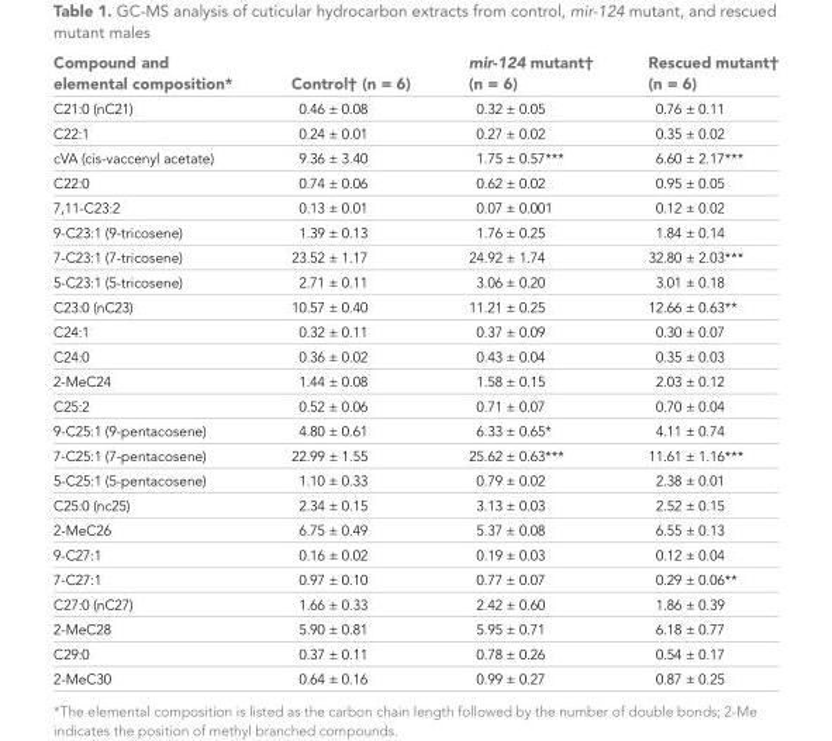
<table><thead><tr><td>Compound and elemental composition*</td><td>Control† (n = 6)</td><td>mir-124 mutant† (n = 6)</td><td>Rescued mutant† (n = 6)</td></tr></thead><tbody><tr><td>C21:0 (nC21)</td><td>0.46 ± 0.08</td><td>0.32 ± 0.05</td><td>0.76 ± 0.11</td></tr><tr><td>C22:1</td><td>0.24 ± 0.01</td><td>0.27 ± 0.02</td><td>0.35 ± 0.02</td></tr><tr><td>cVA (cis-vaccenyl acetate)</td><td>9.36 ± 3.40</td><td>1.75 ± 0.57***</td><td>6.60 ± 2.17***</td></tr><tr><td>C22:0</td><td>0.74 ± 0.06</td><td>0.62 ± 0.02</td><td>0.95 ± 0.05</td></tr><tr><td>7,11-C23:2</td><td>0.13 ± 0.01</td><td>0.07 ± 0.001</td><td>0.12 ± 0.02</td></tr><tr><td>9-C23:1 (9-tricosene)</td><td>1.39 ± 0.13</td><td>1.76 ± 0.25</td><td>1.84 ± 0.14</td></tr><tr><td>7-C23:1 (7-tricosene)</td><td>23.52 ± 1.17</td><td>24.92 ± 1.74</td><td>32.80 ± 2.03***</td></tr><tr><td>5-C23:1 (5-tricosene)</td><td>2.71 ± 0.11</td><td>3.06 ± 0.20</td><td>3.01 ± 0.18</td></tr><tr><td>C23:0 (nC23)</td><td>10.57 ± 0.40</td><td>11.21 ± 0.25</td><td>12.66 ± 0.63**</td></tr><tr><td>C24:1</td><td>0.32 ± 0.11</td><td>0.37 ± 0.09</td><td>0.30 ± 0.07</td></tr><tr><td>C24:0</td><td>0.36 ± 0.02</td><td>0.43 ± 0.04</td><td>0.35 ± 0.03</td></tr><tr><td>2-MeC24</td><td>1.44 ± 0.08</td><td>1.58 ± 0.15</td><td>2.03 ± 0.12</td></tr><tr><td>C25:2</td><td>0.52 ± 0.06</td><td>0.71 ± 0.07</td><td>0.70 ± 0.04</td></tr><tr><td>9-C25:1 (9-pentacosene)</td><td>4.80 ± 0.61</td><td>6.33 ± 0.65*</td><td>4.11 ± 0.74</td></tr><tr><td>7-C25:1 (7-pentacosene)</td><td>22.99 ± 1.55</td><td>25.62 ± 0.63***</td><td>11.61 ± 1.16***</td></tr><tr><td>5-C25:1 (5-pentacosene)</td><td>1.10 ± 0.33</td><td>0.79 ± 0.02</td><td>2.38 ± 0.01</td></tr><tr><td>C25:0 (nc25)</td><td>2.34 ± 0.15</td><td>3.13 ± 0.03</td><td>2.52 ± 0.15</td></tr><tr><td>2-MeC26</td><td>6.75 ± 0.49</td><td>5.37 ± 0.08</td><td>6.55 ± 0.13</td></tr><tr><td>9-C27:1</td><td>0.16 ± 0.02</td><td>0.19 ± 0.03</td><td>0.12 ± 0.04</td></tr><tr><td>7-C27:1</td><td>0.97 ± 0.10</td><td>0.77 ± 0.07</td><td>0.29 ± 0.06**</td></tr><tr><td>C27:0 (nC27)</td><td>1.66 ± 0.33</td><td>2.42 ± 0.60</td><td>1.86 ± 0.39</td></tr><tr><td>2-MeC28</td><td>5.90 ± 0.81</td><td>5.95 ± 0.71</td><td>6.18 ± 0.77</td></tr><tr><td>C29:0</td><td>0.37 ± 0.11</td><td>0.78 ± 0.26</td><td>0.54 ± 0.17</td></tr><tr><td>2-MeC30</td><td>0.64 ± 0.16</td><td>0.99 ± 0.27</td><td>0.87 ± 0.25</td></tr></tbody></table>